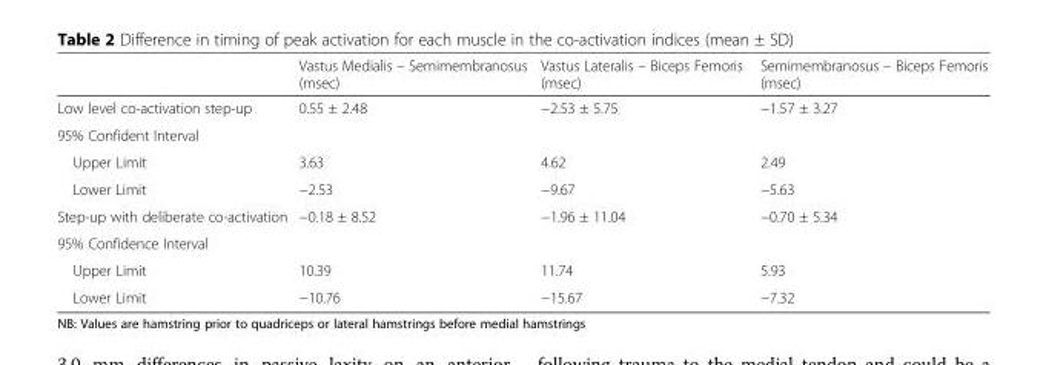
<table><thead><tr><td></td><td>Vastus Medialis – Semimembranosus (msec)</td><td>Vastus Lateralis – Biceps Femoris (msec)</td><td>Semimembranosus – Biceps Femoris (msec)</td></tr></thead><tbody><tr><td>Low level co-activation step-up</td><td>0.55 ± 2.48</td><td>−2.53 ± 5.75</td><td>−1.57 ± 3.27</td></tr><tr><td colspan="4">95% Confident Interval</td></tr><tr><td>Upper Limit</td><td>3.63</td><td>4.62</td><td>2.49</td></tr><tr><td>Lower Limit</td><td>−2.53</td><td>−9.67</td><td>−5.63</td></tr><tr><td>Step-up with deliberate co-activation</td><td>−0.18 ± 8.52</td><td>−1.96 ± 11.04</td><td>−0.70 ± 5.34</td></tr><tr><td colspan="4">95% Confidence Interval</td></tr><tr><td>Upper Limit</td><td>10.39</td><td>11.74</td><td>5.93</td></tr><tr><td>Lower Limit</td><td>−10.76</td><td>−15.67</td><td>−7.32</td></tr></tbody></table>